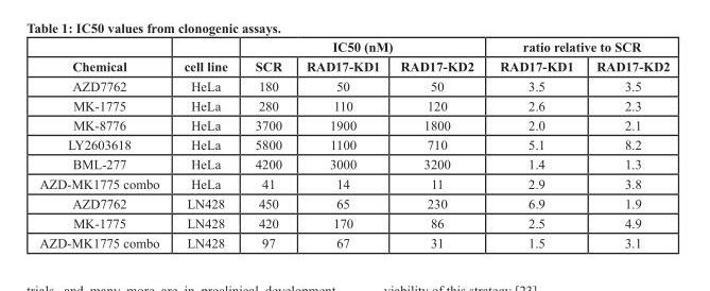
<table><thead><tr><td rowspan="2">Chemical</td><td rowspan="2">cell line</td><td colspan="3">IC50 (nM)</td><td colspan="2">ratio relative to SCR</td></tr><tr><td>SCR</td><td>RAD17-KD1</td><td>RAD17-KD2</td><td>RAD17-KD1</td><td>RAD17-KD2</td></tr></thead><tbody><tr><td>AZD7762</td><td>HeLa</td><td>180</td><td>50</td><td>50</td><td>3.5</td><td>3.5</td></tr><tr><td>MK-1775</td><td>HeLa</td><td>280</td><td>110</td><td>120</td><td>2.6</td><td>2.3</td></tr><tr><td>MK-8776</td><td>HeLa</td><td>3700</td><td>1900</td><td>1800</td><td>2.0</td><td>2.1</td></tr><tr><td>LY2603618</td><td>HeLa</td><td>5800</td><td>1100</td><td>710</td><td>5.1</td><td>8.2</td></tr><tr><td>BML-277</td><td>HeLa</td><td>4200</td><td>3000</td><td>3200</td><td>1.4</td><td>1.3</td></tr><tr><td>AZD-MK1775 combo</td><td>HeLa</td><td>41</td><td>14</td><td>11</td><td>2.9</td><td>3.8</td></tr><tr><td>AZD7762</td><td>LN428</td><td>450</td><td>65</td><td>230</td><td>6.9</td><td>1.9</td></tr><tr><td>MK-1775</td><td>LN428</td><td>420</td><td>170</td><td>86</td><td>2.5</td><td>4.9</td></tr><tr><td>AZD-MK1775 combo</td><td>LN428</td><td>97</td><td>67</td><td>31</td><td>1.5</td><td>3.1</td></tr></tbody></table>